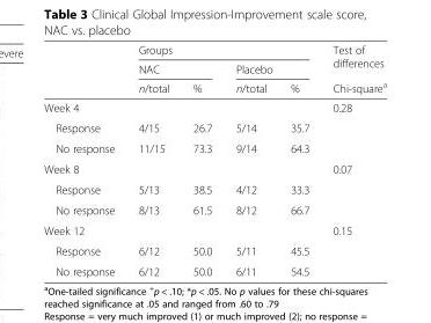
<table><thead><tr><td rowspan="3"></td><td colspan="4">Groups</td><td rowspan="3">Test of differences Chi-square<sup>a</sup></td></tr><tr><td colspan="2">NAC</td><td colspan="2">Placebo</td></tr><tr><td>n/total</td><td>%</td><td>n/total</td><td>%</td></tr></thead><tbody><tr><td>Week 4</td><td></td><td></td><td></td><td></td><td>0.28</td></tr><tr><td>Response</td><td>4/15</td><td>26.7</td><td>5/14</td><td>35.7</td><td></td></tr><tr><td>No response</td><td>11/15</td><td>73.3</td><td>9/14</td><td>64.3</td><td></td></tr><tr><td>Week 8</td><td></td><td></td><td></td><td></td><td>0.07</td></tr><tr><td>Response</td><td>5/13</td><td>38.5</td><td>4/12</td><td>33.3</td><td></td></tr><tr><td>No response</td><td>8/13</td><td>61.5</td><td>8/12</td><td>66.7</td><td></td></tr><tr><td>Week 12</td><td></td><td></td><td></td><td></td><td>0.15</td></tr><tr><td>Response</td><td>6/12</td><td>50.0</td><td>5/11</td><td>45.5</td><td></td></tr><tr><td>No response</td><td>6/12</td><td>50.0</td><td>6/11</td><td>54.5</td><td></td></tr></tbody></table>